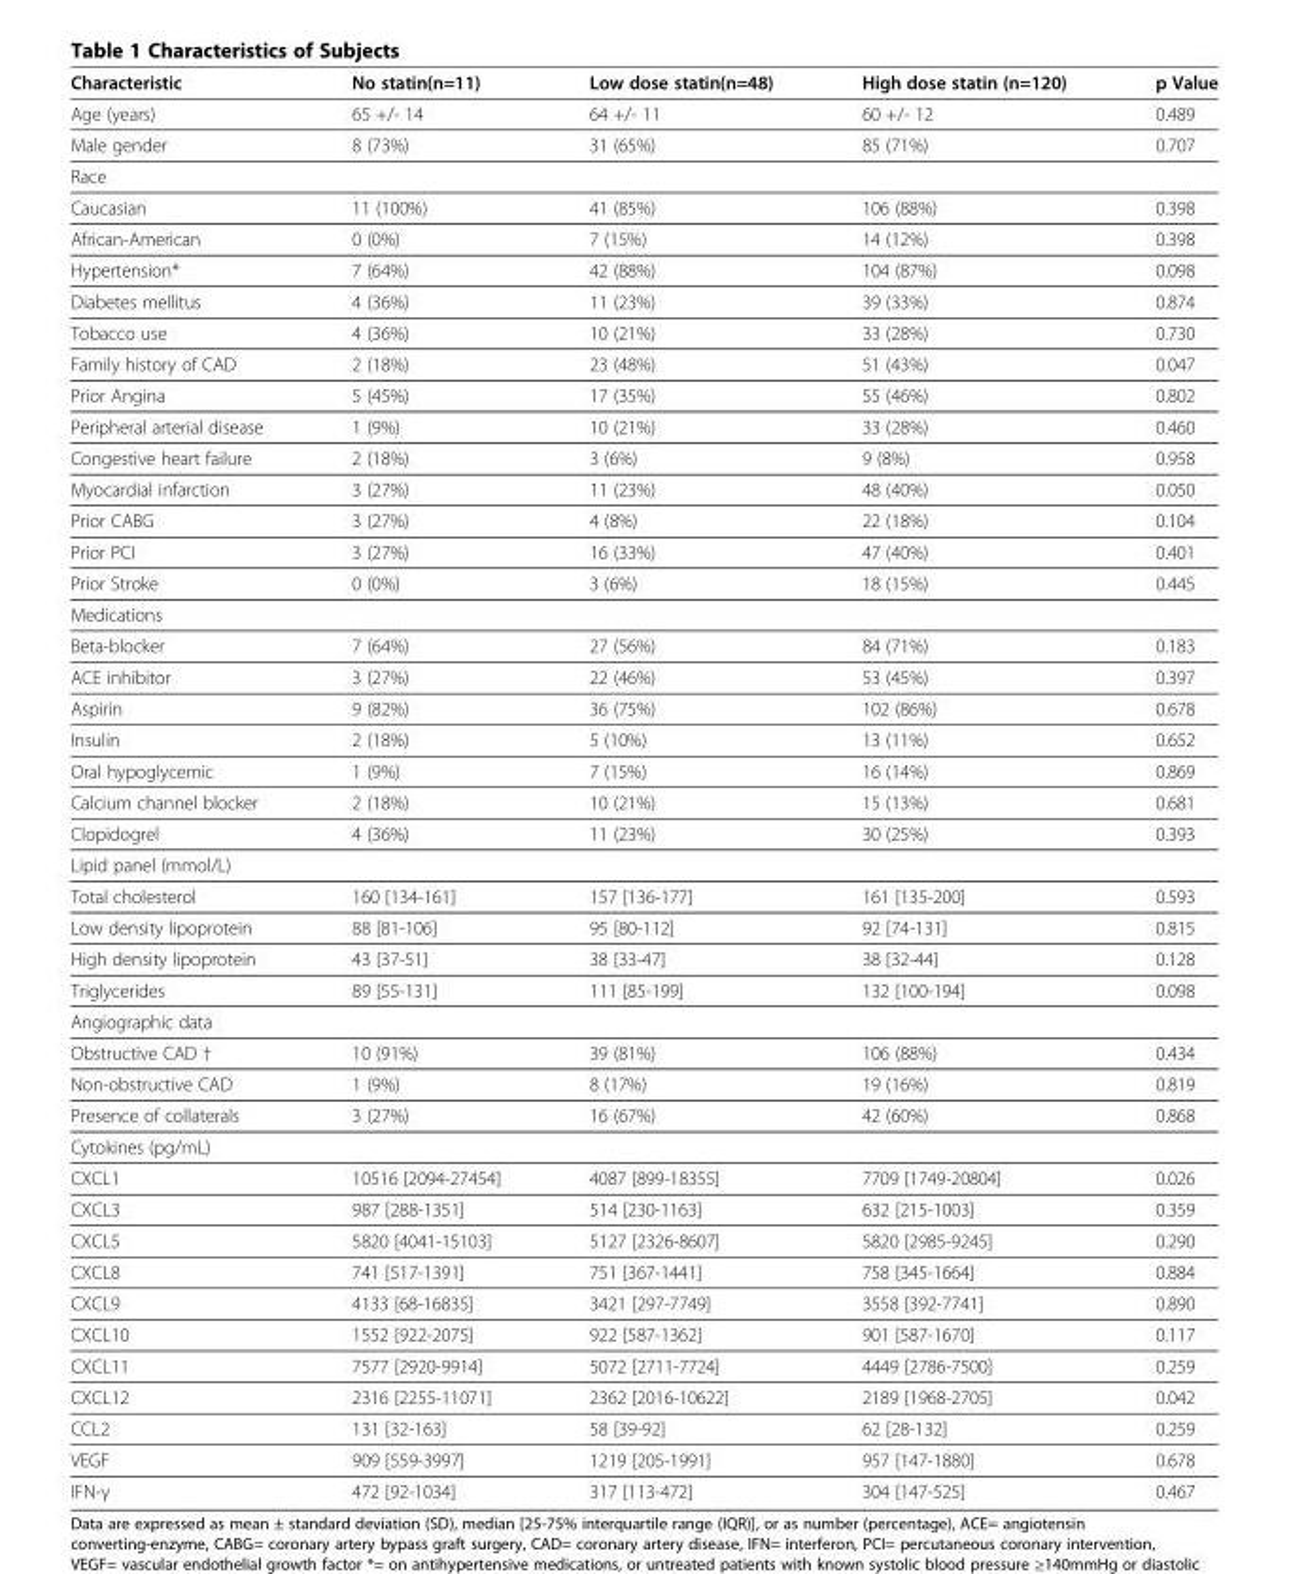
<table><thead><tr><td>Characteristic</td><td>No statin(n=11)</td><td>Low dose statin(n=48)</td><td>High dose statin (n=120)</td><td>p Value</td></tr></thead><tbody><tr><td>Age (years)</td><td>65 +/- 14</td><td>64 +/- 11</td><td>60 +/- 12</td><td>0.489</td></tr><tr><td>Male gender</td><td>8 (73%)</td><td>31 (65%)</td><td>85 (71%)</td><td>0.707</td></tr><tr><td colspan="5">Race</td></tr><tr><td>Caucasian</td><td>11 (100%)</td><td>41 (85%)</td><td>106 (88%)</td><td>0.398</td></tr><tr><td>African-American</td><td>0 (0%)</td><td>7 (15%)</td><td>14 (12%)</td><td>0.398</td></tr><tr><td>Hypertension*</td><td>7 (64%)</td><td>42 (88%)</td><td>104 (87%)</td><td>0.098</td></tr><tr><td>Diabetes mellitus</td><td>4 (36%)</td><td>11 (23%)</td><td>39 (33%)</td><td>0.874</td></tr><tr><td>Tobacco use</td><td>4 (36%)</td><td>10 (21%)</td><td>33 (28%)</td><td>0.730</td></tr><tr><td>Family history of CAD</td><td>2 (18%)</td><td>23 (48%)</td><td>51 (43%)</td><td>0.047</td></tr><tr><td>Prior Angina</td><td>5 (45%)</td><td>17 (35%)</td><td>55 (46%)</td><td>0.802</td></tr><tr><td>Peripheral arterial disease</td><td>1 (9%)</td><td>10 (21%)</td><td>33 (28%)</td><td>0.460</td></tr><tr><td>Congestive heart failure</td><td>2 (18%)</td><td>3 (6%)</td><td>9 (8%)</td><td>0.958</td></tr><tr><td>Myocardial infarction</td><td>3 (27%)</td><td>11 (23%)</td><td>48 (40%)</td><td>0.050</td></tr><tr><td>Prior CABG</td><td>3 (27%)</td><td>4 (8%)</td><td>22 (18%)</td><td>0.104</td></tr><tr><td>Prior PCI</td><td>3 (27%)</td><td>16 (33%)</td><td>47 (40%)</td><td>0.401</td></tr><tr><td>Prior Stroke</td><td>0 (0%)</td><td>3 (6%)</td><td>18 (15%)</td><td>0.445</td></tr><tr><td colspan="5">Medications</td></tr><tr><td>Beta-blocker</td><td>7 (64%)</td><td>27 (56%)</td><td>84 (71%)</td><td>0.183</td></tr><tr><td>ACE inhibitor</td><td>3 (27%)</td><td>22 (46%)</td><td>53 (45%)</td><td>0.397</td></tr><tr><td>Aspirin</td><td>9 (82%)</td><td>36 (75%)</td><td>102 (86%)</td><td>0.678</td></tr><tr><td>Insulin</td><td>2 (18%)</td><td>5 (10%)</td><td>13 (11%)</td><td>0.652</td></tr><tr><td>Oral hypoglycemic</td><td>1 (9%)</td><td>7 (15%)</td><td>16 (14%)</td><td>0.869</td></tr><tr><td>Calcium channel blocker</td><td>2 (18%)</td><td>10 (21%)</td><td>15 (13%)</td><td>0.681</td></tr><tr><td>Clopidogrel</td><td>4 (36%)</td><td>11 (23%)</td><td>30 (25%)</td><td>0.393</td></tr><tr><td colspan="5">Lipid panel (mmol/L)</td></tr><tr><td>Total cholesterol</td><td>160 [134-161]</td><td>157 [136-177]</td><td>161 [135-200]</td><td>0.593</td></tr><tr><td>Low density lipoprotein</td><td>88 [81-106]</td><td>95 [80-112]</td><td>92 [74-131]</td><td>0.815</td></tr><tr><td>High density lipoprotein</td><td>43 [37-51]</td><td>38 [33-47]</td><td>38 [32-44]</td><td>0.128</td></tr><tr><td>Triglycerides</td><td>89 [55-131]</td><td>111 [85-199]</td><td>132 [100-194]</td><td>0.098</td></tr><tr><td colspan="5">Angiographic data</td></tr><tr><td>Obstructive CAD †</td><td>10 (91%)</td><td>39 (81%)</td><td>106 (88%)</td><td>0.434</td></tr><tr><td>Non-obstructive CAD</td><td>1 (9%)</td><td>8 (17%)</td><td>19 (16%)</td><td>0.819</td></tr><tr><td>Presence of collaterals</td><td>3 (27%)</td><td>16 (67%)</td><td>42 (60%)</td><td>0.868</td></tr><tr><td colspan="5">Cytokines (pg/mL)</td></tr><tr><td>CXCL1</td><td>10516 [2094-27454]</td><td>4087 [899-18355]</td><td>7709 [1749-20804]</td><td>0.026</td></tr><tr><td>CXCL3</td><td>987 [288-1351]</td><td>514 [230-1163]</td><td>632 [215-1003]</td><td>0.359</td></tr><tr><td>CXCL5</td><td>5820 [4041-15103]</td><td>5127 [2326-8607]</td><td>5820 [2985-9245]</td><td>0.290</td></tr><tr><td>CXCL8</td><td>741 [517-1391]</td><td>751 [367-1441]</td><td>758 [345-1664]</td><td>0.884</td></tr><tr><td>CXCL9</td><td>4133 [68-16835]</td><td>3421 [297-7749]</td><td>3558 [392-7741]</td><td>0.890</td></tr><tr><td>CXCL10</td><td>1552 [922-2075]</td><td>922 [587-1362]</td><td>901 [587-1670]</td><td>0.117</td></tr><tr><td>CXCL11</td><td>7577 [2920-9914]</td><td>5072 [2711-7724]</td><td>4449 [2786-7500]</td><td>0.259</td></tr><tr><td>CXCL12</td><td>2316 [2255-11071]</td><td>2362 [2016-10622]</td><td>2189 [1968-2705]</td><td>0.042</td></tr><tr><td>CCL2</td><td>131 [32-163]</td><td>58 [39-92]</td><td>62 [28-132]</td><td>0.259</td></tr><tr><td>VEGF</td><td>909 [559-3997]</td><td>1219 [205-1991]</td><td>957 [147-1880]</td><td>0.678</td></tr><tr><td>IFN-γ</td><td>472 [92-1034]</td><td>317 [113-472]</td><td>304 [147-525]</td><td>0.467</td></tr></tbody></table>